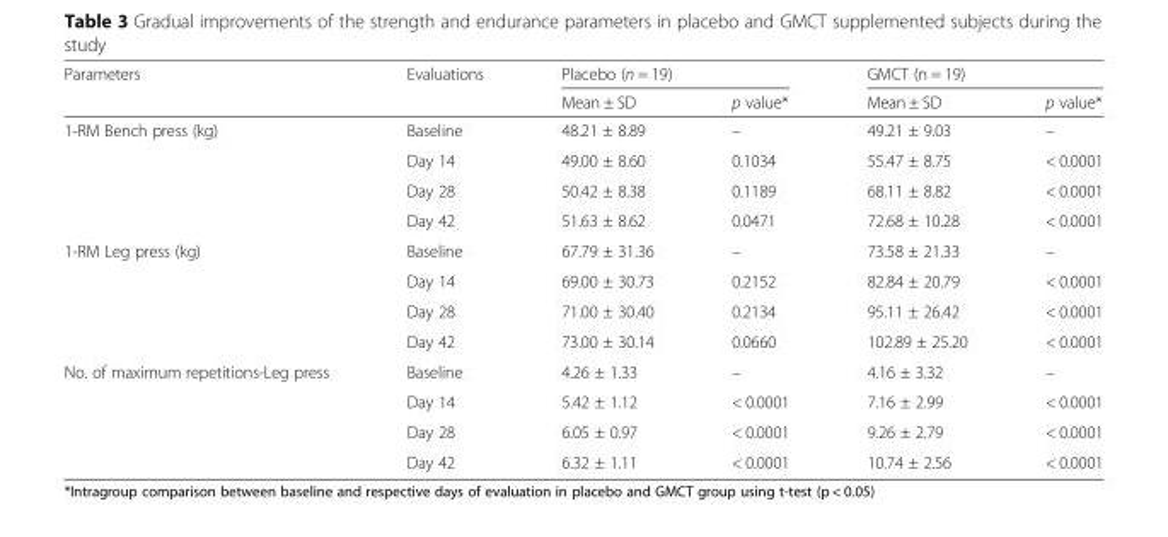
<table><thead><tr><td rowspan="2">Parameters</td><td rowspan="2">Evaluations</td><td colspan="2">Placebo (n = 19)</td><td colspan="2">GMCT (n = 19)</td></tr><tr><td>Mean ± SD</td><td>p value*</td><td>Mean ± SD</td><td>p value*</td></tr></thead><tbody><tr><td rowspan="4">1-RM Bench press (kg)</td><td>Baseline</td><td>48.21 ± 8.89</td><td>–</td><td>49.21 ± 9.03</td><td>–</td></tr><tr><td>Day 14</td><td>49.00 ± 8.60</td><td>0.1034</td><td>55.47 ± 8.75</td><td>&lt; 0.0001</td></tr><tr><td>Day 28</td><td>50.42 ± 8.38</td><td>0.1189</td><td>68.11 ± 8.82</td><td>&lt; 0.0001</td></tr><tr><td>Day 42</td><td>51.63 ± 8.62</td><td>0.0471</td><td>72.68 ± 10.28</td><td>&lt; 0.0001</td></tr><tr><td rowspan="4">1-RM Leg press (kg)</td><td>Baseline</td><td>67.79 ± 31.36</td><td>–</td><td>73.58 ± 21.33</td><td>–</td></tr><tr><td>Day 14</td><td>69.00 ± 30.73</td><td>0.2152</td><td>82.84 ± 20.79</td><td>&lt; 0.0001</td></tr><tr><td>Day 28</td><td>71.00 ± 30.40</td><td>0.2134</td><td>95.11 ± 26.42</td><td>&lt; 0.0001</td></tr><tr><td>Day 42</td><td>73.00 ± 30.14</td><td>0.0660</td><td>102.89 ± 25.20</td><td>&lt; 0.0001</td></tr><tr><td rowspan="4">No. of maximum repetitions-Leg press</td><td>Baseline</td><td>4.26 ± 1.33</td><td>–</td><td>4.16 ± 3.32</td><td>–</td></tr><tr><td>Day 14</td><td>5.42 ± 1.12</td><td>&lt; 0.0001</td><td>7.16 ± 2.99</td><td>&lt; 0.0001</td></tr><tr><td>Day 28</td><td>6.05 ± 0.97</td><td>&lt; 0.0001</td><td>9.26 ± 2.79</td><td>&lt; 0.0001</td></tr><tr><td>Day 42</td><td>6.32 ± 1.11</td><td>&lt; 0.0001</td><td>10.74 ± 2.56</td><td>&lt; 0.0001</td></tr></tbody></table>